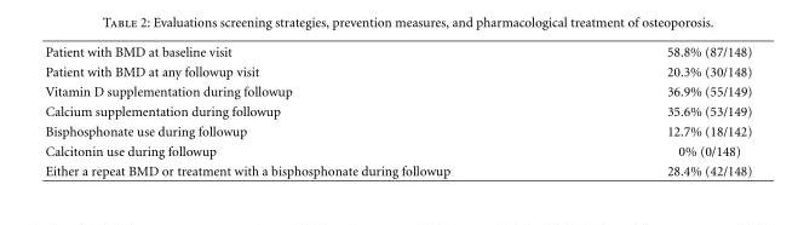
<table><tbody><tr><td>Patient with BMD at baseline visit</td><td>58.8% (87/148)</td></tr><tr><td>Patient with BMD at any followup visit</td><td>20.3% (30/148)</td></tr><tr><td>Vitamin D supplementation during followup</td><td>36.9% (55/149)</td></tr><tr><td>Calcium supplementation during followup</td><td>35.6% (53/149)</td></tr><tr><td>Bisphosphonate use during followup</td><td>12.7% (18/142)</td></tr><tr><td>Calcitonin use during followup</td><td>0% (0/148)</td></tr><tr><td>Either a repeat BMD or treatment with a bisphosphonate during followup</td><td>28.4% (42/148)</td></tr></tbody></table>